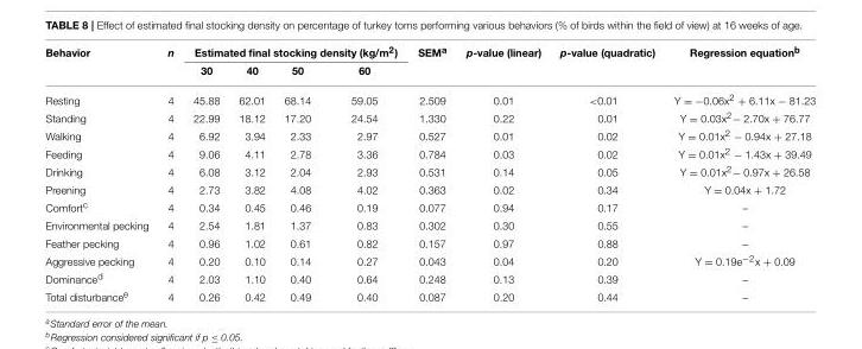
<table><thead><tr><td rowspan="2">Behavior</td><td rowspan="2">n</td><td colspan="4">Estimated final stocking density (kg/m<sup>2</sup>)</td><td rowspan="2">SEM<sup>a</sup></td><td rowspan="2">p-value (linear)</td><td rowspan="2">p-value (quadratic)</td><td rowspan="2">Regression equation<sup>b</sup></td></tr><tr><td>30</td><td>40</td><td>50</td><td>60</td></tr></thead><tbody><tr><td>Resting</td><td>4</td><td>45.88</td><td>62.01</td><td>68.14</td><td>59.05</td><td>2.509</td><td>0.01</td><td>&lt;0.01</td><td>Y = −0.06x<sup>2</sup> + 6.11x − 81.23</td></tr><tr><td>Standing</td><td>4</td><td>22.99</td><td>18.12</td><td>17.20</td><td>24.54</td><td>1.330</td><td>0.22</td><td>0.01</td><td>Y = 0.03x<sup>2</sup>− 2.70x + 76.77</td></tr><tr><td>Walking</td><td>4</td><td>6.92</td><td>3.94</td><td>2.33</td><td>2.97</td><td>0.527</td><td>0.01</td><td>0.02</td><td>Y = 0.01x<sup>2</sup> − 0.94x + 27.18</td></tr><tr><td>Feeding</td><td>4</td><td>9.06</td><td>4.11</td><td>2.78</td><td>3.36</td><td>0.784</td><td>0.03</td><td>0.02</td><td>Y = 0.01x<sup>2</sup> − 1.43x + 39.49</td></tr><tr><td>Drinking</td><td>4</td><td>6.08</td><td>3.12</td><td>2.04</td><td>2.93</td><td>0.531</td><td>0.14</td><td>0.05</td><td>Y = 0.01x<sup>2</sup>− 0.97x + 26.58</td></tr><tr><td>Preening</td><td>4</td><td>2.73</td><td>3.82</td><td>4.08</td><td>4.02</td><td>0.363</td><td>0.02</td><td>0.34</td><td>Y = 0.04x + 1.72</td></tr><tr><td>Comfort<sup>c</sup></td><td>4</td><td>0.34</td><td>0.45</td><td>0.46</td><td>0.19</td><td>0.077</td><td>0.94</td><td>0.17</td><td>–</td></tr><tr><td>Environmental pecking</td><td>4</td><td>2.54</td><td>1.81</td><td>1.37</td><td>0.83</td><td>0.302</td><td>0.30</td><td>0.55</td><td>–</td></tr><tr><td>Feather pecking</td><td>4</td><td>0.96</td><td>1.02</td><td>0.61</td><td>0.82</td><td>0.157</td><td>0.97</td><td>0.88</td><td>–</td></tr><tr><td>Aggressive pecking</td><td>4</td><td>0.20</td><td>0.10</td><td>0.14</td><td>0.27</td><td>0.043</td><td>0.04</td><td>0.20</td><td>Y = 0.19e<sup>−2</sup>x + 0.09</td></tr><tr><td>Dominance<sup>d</sup></td><td>4</td><td>2.03</td><td>1.10</td><td>0.40</td><td>0.64</td><td>0.248</td><td>0.13</td><td>0.39</td><td>–</td></tr><tr><td>Total disturbance<sup>e</sup></td><td>4</td><td>0.26</td><td>0.42</td><td>0.49</td><td>0.40</td><td>0.087</td><td>0.20</td><td>0.44</td><td>–</td></tr></tbody></table>